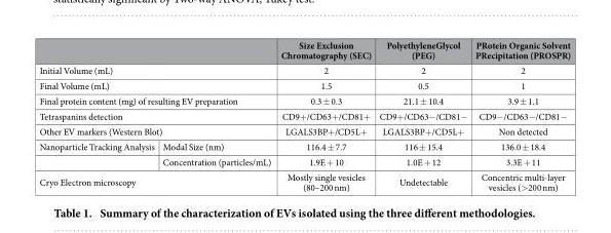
<table><thead><tr><td></td><td></td><td>Size Exclusion Chromatography (SEC)</td><td>PolyethyleneGlycol (PEG)</td><td>PRotein Organic Solvent PRecipitation (PROSPR)</td></tr></thead><tbody><tr><td colspan="2">Initial Volume (mL)</td><td>2</td><td>2</td><td>2</td></tr><tr><td colspan="2">Final Volume (mL)</td><td>1.5</td><td>0.5</td><td>1</td></tr><tr><td colspan="2">Final protein content (mg) of resulting EV preparation</td><td>0.3 ± 0.3</td><td>21.1 ± 10.4</td><td>3.9 ± 1.1</td></tr><tr><td colspan="2">Tetraspanins detection</td><td>CD9+ /CD63+ /CD81+</td><td>CD9+ /CD63− /CD81−</td><td>CD9− /CD63− /CD81−</td></tr><tr><td colspan="2">Other EV markers (Western Blot)</td><td>LGALS3BP+ /CD5L+</td><td>LGALS3BP+ /CD5L+</td><td>Non detected</td></tr><tr><td rowspan="2">Nanoparticle Tracking Analysis</td><td>Modal Size (nm)</td><td>116.4 ± 7.7</td><td>116 ± 15.4</td><td>136.0 ± 18.4</td></tr><tr><td>Concentration (particles/mL)</td><td>1.9E + 10</td><td>1.0E + 12</td><td>3.3E + 11</td></tr><tr><td colspan="2">Cryo Electron microscopy</td><td>Mostly single vesicles (80–200 nm)</td><td>Undetectable</td><td>Concentric multi-layer vesicles (&gt;200 nm)</td></tr></tbody></table>